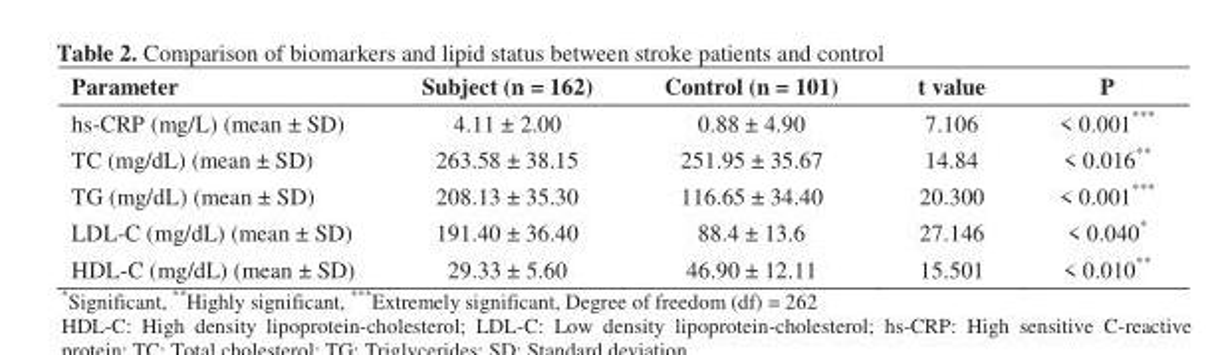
<table><thead><tr><td>Parameter</td><td>Subject (n = 162)</td><td>Control (n = 101)</td><td>t value</td><td>P</td></tr></thead><tbody><tr><td>hs-CRP (mg/L) (mean ± SD)</td><td>4.11 ± 2.00</td><td>0.88 ± 4.90</td><td>7.106</td><td>&lt; 0.001***</td></tr><tr><td>TC (mg/dL) (mean ± SD)</td><td>263.58 ± 38.15</td><td>251.95 ± 35.67</td><td>14.84</td><td>&lt; 0.016**</td></tr><tr><td>TG (mg/dL) (mean ± SD)</td><td>208.13 ± 35.30</td><td>116.65 ± 34.40</td><td>20.300</td><td>&lt; 0.001***</td></tr><tr><td>LDL-C (mg/dL) (mean ± SD)</td><td>191.40 ± 36.40</td><td>88.4 ± 13.6</td><td>27.146</td><td>&lt; 0.040*</td></tr><tr><td>HDL-C (mg/dL) (mean ± SD)</td><td>29.33 ± 5.60</td><td>46.90 ± 12.11</td><td>15.501</td><td>&lt; 0.010**</td></tr></tbody></table>